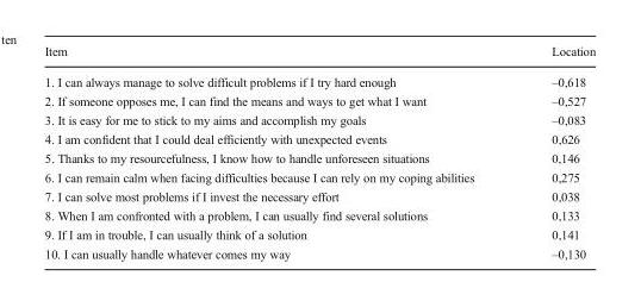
<table><thead><tr><td>Item</td><td>Location</td></tr></thead><tbody><tr><td>1. I can always manage to solve difficult problems if I try hard enough</td><td>–0,618</td></tr><tr><td>2. If someone opposes me, I can find the means and ways to get what I want</td><td>–0,527</td></tr><tr><td>3. It is easy for me to stick to my aims and accomplish my goals</td><td>–0,083</td></tr><tr><td>4. I am confident that I could deal efficiently with unexpected events</td><td>0,626</td></tr><tr><td>5. Thanks to my resourcefulness, I know how to handle unforeseen situations</td><td>0,146</td></tr><tr><td>6. I can remain calm when facing difficulties because I can rely on my coping abilities</td><td>0,275</td></tr><tr><td>7. I can solve most problems if I invest the necessary effort</td><td>0,038</td></tr><tr><td>8. When I am confronted with a problem, I can usually find several solutions</td><td>0,133</td></tr><tr><td>9. If I am in trouble, I can usually think of a solution</td><td>0,141</td></tr><tr><td>10. I can usually handle whatever comes my way</td><td>–0,130</td></tr></tbody></table>